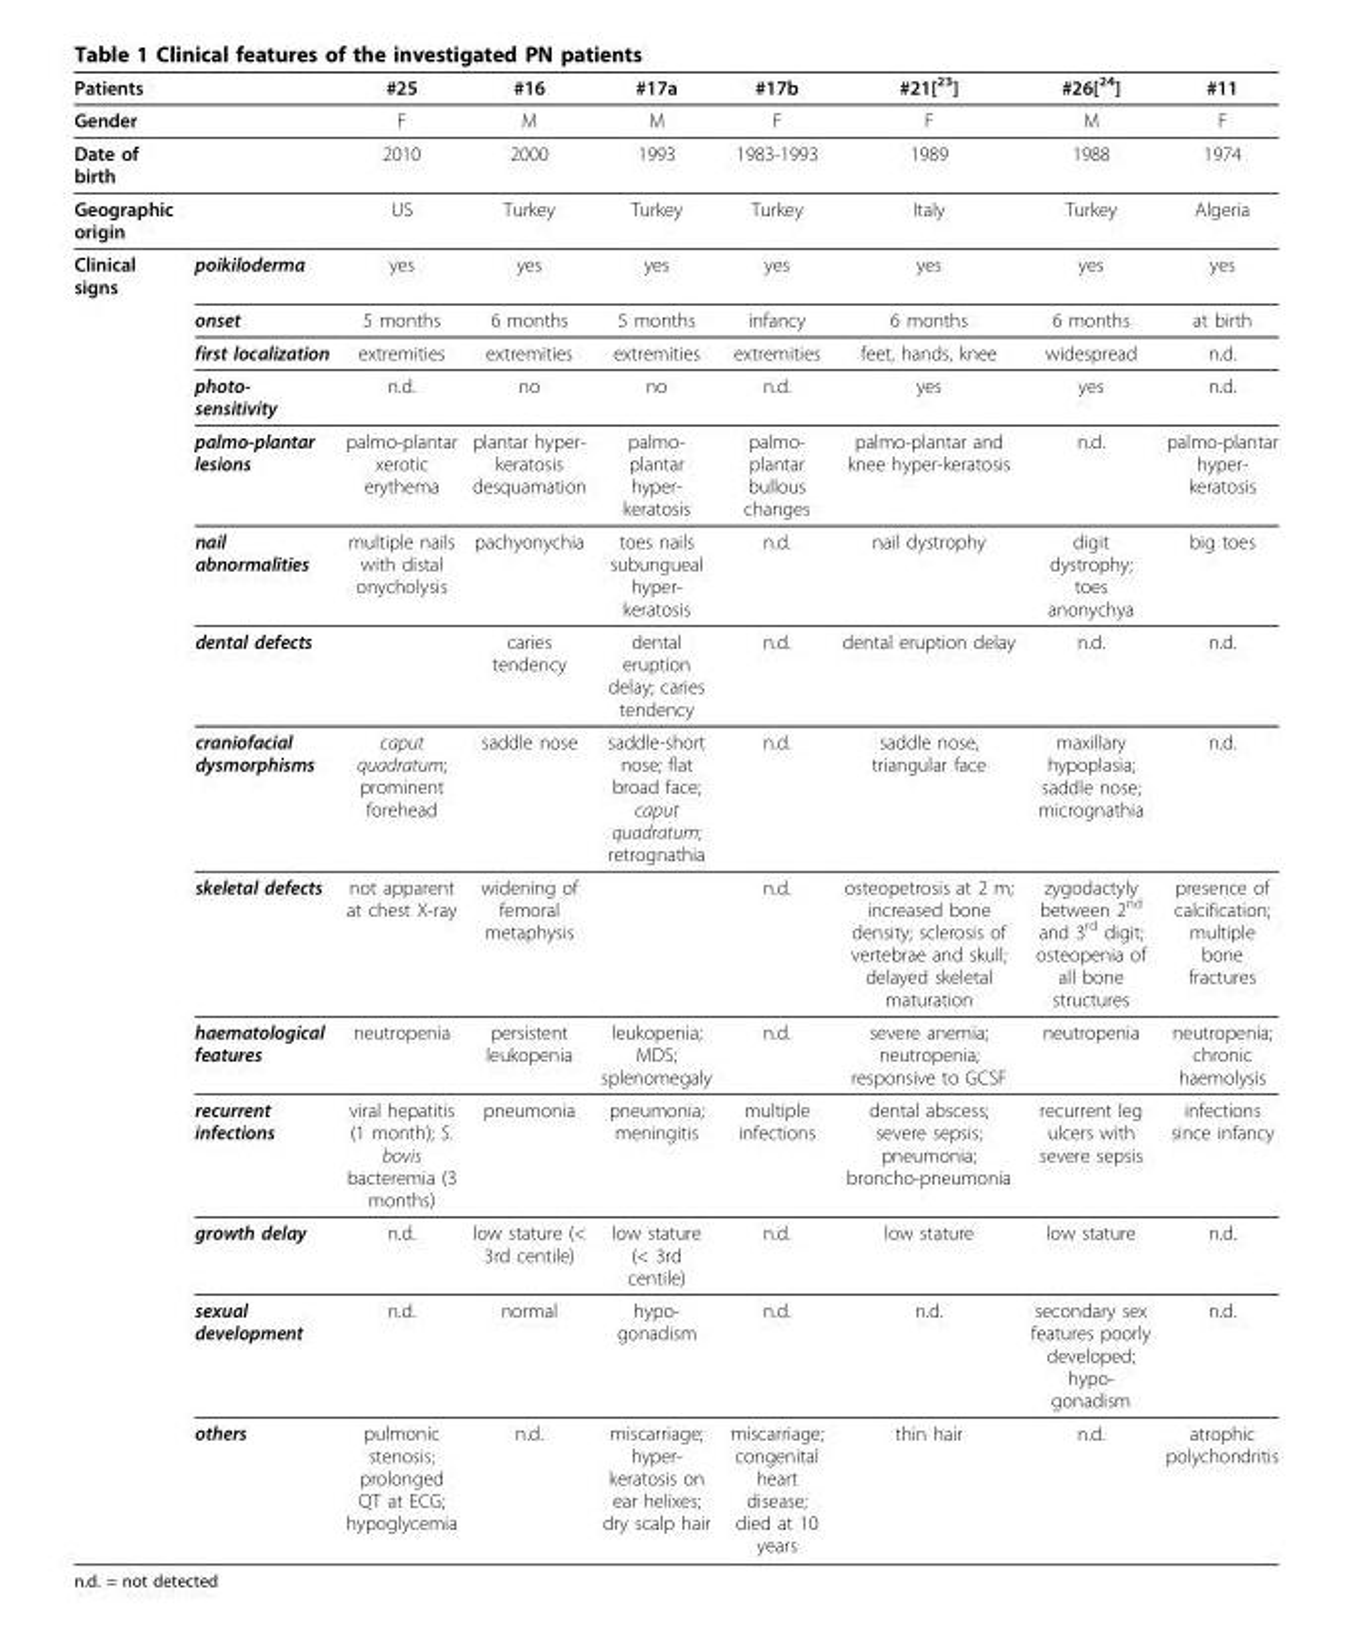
<table><thead><tr><td>Patients</td><td></td><td>#25</td><td>#16</td><td>#17a</td><td>#17b</td><td>#21[<sup>23</sup>]</td><td>#26[<sup>24</sup>]</td><td>#11</td></tr></thead><tbody><tr><td>Gender</td><td></td><td>F</td><td>M</td><td>M</td><td>F</td><td>F</td><td>M</td><td>F</td></tr><tr><td>Date of birth</td><td></td><td>2010</td><td>2000</td><td>1993</td><td>1983-1993</td><td>1989</td><td>1988</td><td>1974</td></tr><tr><td>Geographic origin</td><td></td><td>US</td><td>Turkey</td><td>Turkey</td><td>Turkey</td><td>Italy</td><td>Turkey</td><td>Algeria</td></tr><tr><td rowspan="14">Clinical signs</td><td>poikiloderma</td><td>yes</td><td>yes</td><td>yes</td><td>yes</td><td>yes</td><td>yes</td><td>yes</td></tr><tr><td>onset</td><td>5 months</td><td>6 months</td><td>5 months</td><td>infancy</td><td>6 months</td><td>6 months</td><td>at birth</td></tr><tr><td>first localization</td><td>extremities</td><td>extremities</td><td>extremities</td><td>extremities</td><td>feet, hands, knee</td><td>widespread</td><td>n.d.</td></tr><tr><td>photo- sensitivity</td><td>n.d.</td><td>no</td><td>no</td><td>n.d.</td><td>yes</td><td>yes</td><td>n.d.</td></tr><tr><td>palmo-plantar lesions</td><td>palmo-plantar xerotic erythema</td><td>plantar hyper- keratosis desquamation</td><td>palmo- plantar hyper- keratosis</td><td>palmo- plantar bullous changes</td><td>palmo-plantar and knee hyper-keratosis</td><td>n.d.</td><td>palmo-plantar hyper- keratosis</td></tr><tr><td>nail abnormalities</td><td>multiple nails with distal onycholysis</td><td>pachyonychia</td><td>toes nails subungueal hyper- keratosis</td><td>n.d.</td><td>nail dystrophy</td><td>digit dystrophy; toes anonychya</td><td>big toes</td></tr><tr><td>dental defects</td><td></td><td>caries tendency</td><td>dental eruption delay; caries tendency</td><td>n.d.</td><td>dental eruption delay</td><td>n.d.</td><td>n.d.</td></tr><tr><td>craniofacial dysmorphisms</td><td>caput quadratum; prominent forehead</td><td>saddle nose</td><td>saddle-short nose; flat broad face; caput quadratum; retrognathia</td><td>n.d.</td><td>saddle nose, triangular face</td><td>maxillary hypoplasia; saddle nose; micrognathia</td><td>n.d.</td></tr><tr><td>skeletal defects</td><td>not apparent at chest X-ray</td><td>widening of femoral metaphysis</td><td></td><td>n.d.</td><td>osteopetrosis at 2 m; increased bone density; sclerosis of vertebrae and skull; delayed skeletal maturation</td><td>zygodactyly between 2<sup>nd</sup> and 3<sup>rd</sup> digit; osteopenia of all bone structures</td><td>presence of calcification; multiple bone fractures</td></tr><tr><td>haematological features</td><td>neutropenia</td><td>persistent leukopenia</td><td>leukopenia; MDS; splenomegaly</td><td>n.d.</td><td>severe anemia; neutropenia; responsive to GCSF</td><td>neutropenia</td><td>neutropenia; chronic haemolysis</td></tr><tr><td>recurrent infections</td><td>viral hepatitis (1 month); S. bovis bacteremia (3 months)</td><td>pneumonia</td><td>pneumonia; meningitis</td><td>multiple infections</td><td>dental abscess; severe sepsis; pneumonia; broncho-pneumonia</td><td>recurrent leg ulcers with severe sepsis</td><td>infections since infancy</td></tr><tr><td>growth delay</td><td>n.d.</td><td>low stature (&lt; 3rd centile)</td><td>low stature (&lt; 3rd centile)</td><td>n.d.</td><td>low stature</td><td>low stature</td><td>n.d.</td></tr><tr><td>sexual development</td><td>n.d.</td><td>normal</td><td>hypo- gonadism</td><td>n.d.</td><td>n.d.</td><td>secondary sex features poorly developed; hypo- gonadism</td><td>n.d.</td></tr><tr><td>others</td><td>pulmonic stenosis; prolonged QT at ECG; hypoglycemia</td><td>n.d.</td><td>miscarriage; hyper- keratosis on ear helixes; dry scalp hair</td><td>miscarriage; congenital heart disease; died at 10 years</td><td>thin hair</td><td>n.d.</td><td>atrophic polychondritis</td></tr></tbody></table>